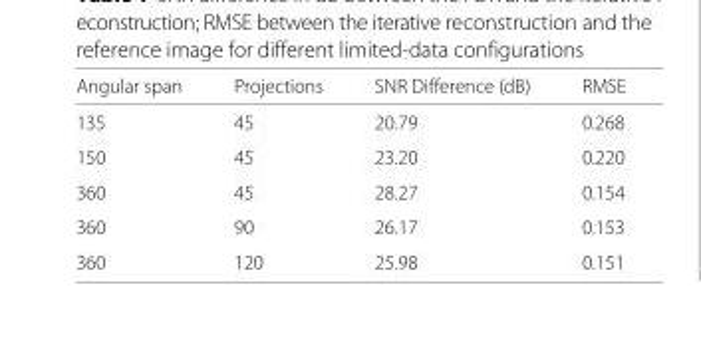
<table><thead><tr><td>Angular span</td><td>Projections</td><td>SNR Difference (dB)</td><td>RMSE</td></tr></thead><tbody><tr><td>135</td><td>45</td><td>20.79</td><td>0.268</td></tr><tr><td>150</td><td>45</td><td>23.20</td><td>0.220</td></tr><tr><td>360</td><td>45</td><td>28.27</td><td>0.154</td></tr><tr><td>360</td><td>90</td><td>26.17</td><td>0.153</td></tr><tr><td>360</td><td>120</td><td>25.98</td><td>0.151</td></tr></tbody></table>